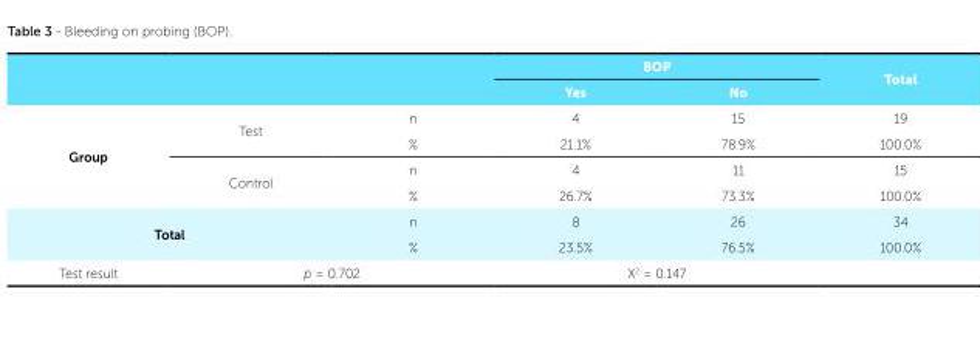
<table><thead><tr><td rowspan="2"></td><td rowspan="2"></td><td rowspan="2"></td><td colspan="2">BOP</td><td rowspan="2">Total</td></tr><tr><td>Yes</td><td>No</td></tr></thead><tbody><tr><td rowspan="4">Group</td><td rowspan="2">Test</td><td>n</td><td>4</td><td>15</td><td>19</td></tr><tr><td>%</td><td>21.1%</td><td>78.9%</td><td>100.0%</td></tr><tr><td rowspan="2">Control</td><td>n</td><td>4</td><td>11</td><td>15</td></tr><tr><td>%</td><td>26.7%</td><td>73.3%</td><td>100.0%</td></tr><tr><td rowspan="2" colspan="2">Total</td><td>n</td><td>8</td><td>26</td><td>34</td></tr><tr><td>%</td><td>23.5%</td><td>76.5%</td><td>100.0%</td></tr><tr><td>Test result</td><td colspan="2">p = 0.702</td><td colspan="2">X<sup>2</sup> = 0.147</td><td></td></tr></tbody></table>